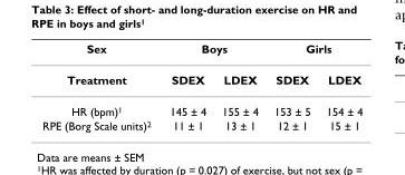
<table><thead><tr><td rowspan="2">Sex Treatment</td><td colspan="2">Boys</td><td colspan="2">Girls</td></tr><tr><td>SDEX</td><td>LDEX</td><td>SDEX</td><td>LDEX</td></tr></thead><tbody><tr><td>HR (bpm)<sup>1</sup></td><td>145 ± 4</td><td>155 ± 4</td><td>153 ± 5</td><td>154 ± 4</td></tr><tr><td>RPE (Borg Scale units)<sup>2</sup></td><td>11 ± 1</td><td>13 ± 1</td><td>12 ± 1</td><td>15 ± 1</td></tr></tbody></table>